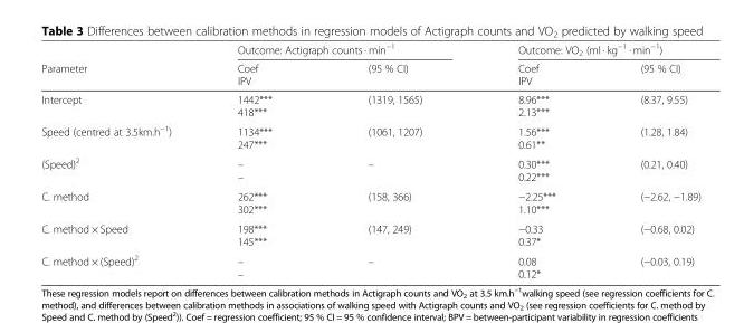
<table><thead><tr><td rowspan="2">Parameter</td><td colspan="2">Outcome: Actigraph counts · min<sup>−1</sup></td><td colspan="2">Outcome: VO<sub>2</sub> (ml · kg<sup>−1</sup> · min<sup>−1</sup>)</td></tr><tr><td>Coef IPV</td><td>(95 % CI)</td><td>Coef IPV</td><td>(95 % CI)</td></tr></thead><tbody><tr><td>Intercept</td><td>1442*** 418***</td><td>(1319, 1565)</td><td>8.96*** 2.13***</td><td>(8.37, 9.55)</td></tr><tr><td>Speed (centred at 3.5km.h<sup>−1</sup>)</td><td>1134*** 247***</td><td>(1061, 1207)</td><td>1.56*** 0.61**</td><td>(1.28, 1.84)</td></tr><tr><td>(Speed)<sup>2</sup></td><td>– –</td><td>–</td><td>0.30*** 0.22***</td><td>(0.21, 0.40)</td></tr><tr><td>C. method</td><td>262*** 302***</td><td>(158, 366)</td><td>−2.25*** 1.10***</td><td>(−2.62, −1.89)</td></tr><tr><td>C. method × Speed</td><td>198*** 145***</td><td>(147, 249)</td><td>−0.33 0.37*</td><td>(−0.68, 0.02)</td></tr><tr><td>C. method × (Speed)<sup>2</sup></td><td>– –</td><td>–</td><td>0.08 0.12*</td><td>(−0.03, 0.19)</td></tr></tbody></table>